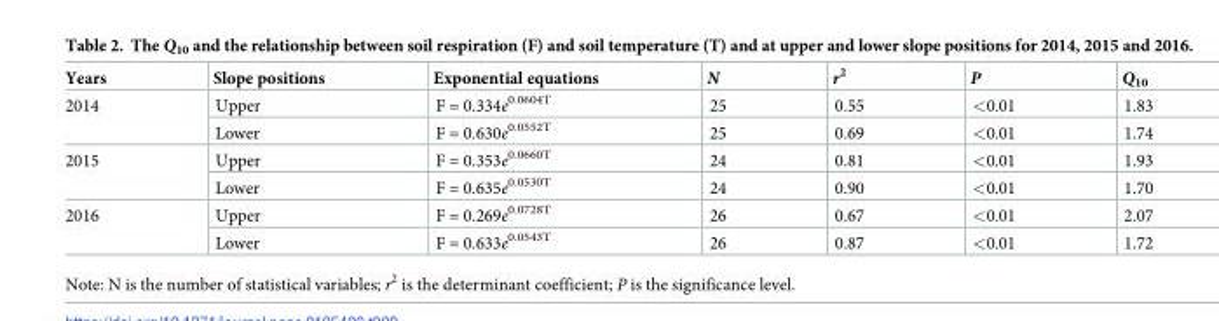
<table><thead><tr><td>Years</td><td>Slope positions</td><td>Exponential equations</td><td>N</td><td>r<sup>2</sup></td><td>P</td><td>Q<sub>10</sub></td></tr></thead><tbody><tr><td rowspan="2">2014</td><td>Upper</td><td>F = 0.334e<sup>0.0604T</sup></td><td>25</td><td>0.55</td><td>&lt;0.01</td><td>1.83</td></tr><tr><td>Lower</td><td>F = 0.630e<sup>0.0552T</sup></td><td>25</td><td>0.69</td><td>&lt;0.01</td><td>1.74</td></tr><tr><td rowspan="2">2015</td><td>Upper</td><td>F = 0.353e<sup>0.0660T</sup></td><td>24</td><td>0.81</td><td>&lt;0.01</td><td>1.93</td></tr><tr><td>Lower</td><td>F = 0.635e<sup>0.0530T</sup></td><td>24</td><td>0.90</td><td>&lt;0.01</td><td>1.70</td></tr><tr><td rowspan="2">2016</td><td>Upper</td><td>F = 0.269e<sup>0.0728T</sup></td><td>26</td><td>0.67</td><td>&lt;0.01</td><td>2.07</td></tr><tr><td>Lower</td><td>F = 0.633e<sup>0.0543T</sup></td><td>26</td><td>0.87</td><td>&lt;0.01</td><td>1.72</td></tr></tbody></table>